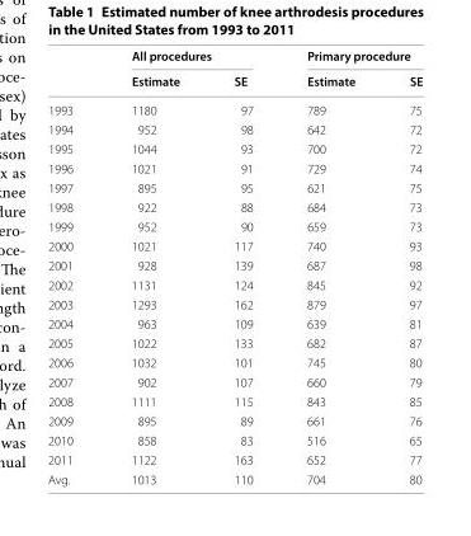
<table><thead><tr><td rowspan="2"></td><td colspan="2">All procedures</td><td colspan="2">Primary procedure</td></tr><tr><td>Estimate</td><td>SE</td><td>Estimate</td><td>SE</td></tr></thead><tbody><tr><td>1993</td><td>1180</td><td>97</td><td>789</td><td>75</td></tr><tr><td>1994</td><td>952</td><td>98</td><td>642</td><td>72</td></tr><tr><td>1995</td><td>1044</td><td>93</td><td>700</td><td>72</td></tr><tr><td>1996</td><td>1021</td><td>91</td><td>729</td><td>74</td></tr><tr><td>1997</td><td>895</td><td>95</td><td>621</td><td>75</td></tr><tr><td>1998</td><td>922</td><td>88</td><td>684</td><td>73</td></tr><tr><td>1999</td><td>952</td><td>90</td><td>659</td><td>73</td></tr><tr><td>2000</td><td>1021</td><td>117</td><td>740</td><td>93</td></tr><tr><td>2001</td><td>928</td><td>139</td><td>687</td><td>98</td></tr><tr><td>2002</td><td>1131</td><td>124</td><td>845</td><td>92</td></tr><tr><td>2003</td><td>1293</td><td>162</td><td>879</td><td>97</td></tr><tr><td>2004</td><td>963</td><td>109</td><td>639</td><td>81</td></tr><tr><td>2005</td><td>1022</td><td>133</td><td>682</td><td>87</td></tr><tr><td>2006</td><td>1032</td><td>101</td><td>745</td><td>80</td></tr><tr><td>2007</td><td>902</td><td>107</td><td>660</td><td>79</td></tr><tr><td>2008</td><td>1111</td><td>115</td><td>843</td><td>85</td></tr><tr><td>2009</td><td>895</td><td>89</td><td>661</td><td>76</td></tr><tr><td>2010</td><td>858</td><td>83</td><td>516</td><td>65</td></tr><tr><td>2011</td><td>1122</td><td>163</td><td>652</td><td>77</td></tr><tr><td>Avg.</td><td>1013</td><td>110</td><td>704</td><td>80</td></tr></tbody></table>